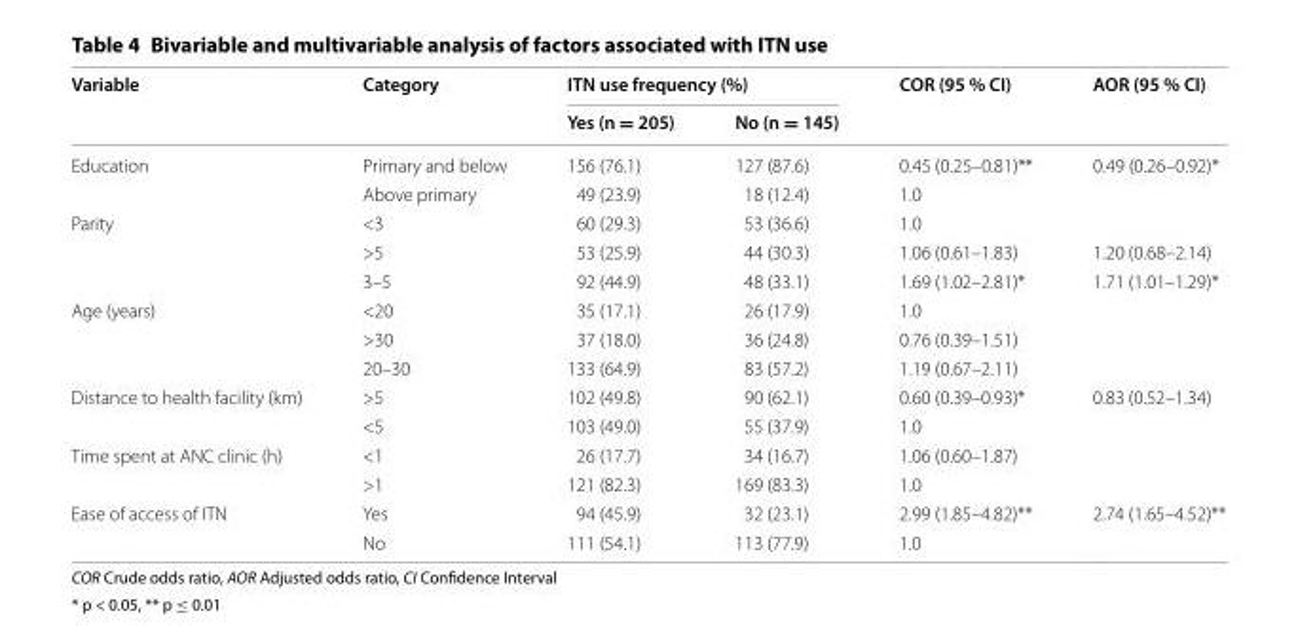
<table><thead><tr><td rowspan="2">Variable</td><td rowspan="2">Category</td><td colspan="2">ITN use frequency (%)</td><td rowspan="2">COR (95 % CI)</td><td rowspan="2">AOR (95 % CI)</td></tr><tr><td>Yes (n = 205)</td><td>No (n = 145)</td></tr></thead><tbody><tr><td rowspan="2">Education</td><td>Primary and below</td><td>156 (76.1)</td><td>127 (87.6)</td><td>0.45 (0.25–0.81)**</td><td>0.49 (0.26–0.92)*</td></tr><tr><td>Above primary</td><td>49 (23.9)</td><td>18 (12.4)</td><td>1.0</td><td></td></tr><tr><td rowspan="3">Parity</td><td>&lt;3</td><td>60 (29.3)</td><td>53 (36.6)</td><td>1.0</td><td></td></tr><tr><td>&gt;5</td><td>53 (25.9)</td><td>44 (30.3)</td><td>1.06 (0.61–1.83)</td><td>1.20 (0.68–2.14)</td></tr><tr><td>3–5</td><td>92 (44.9)</td><td>48 (33.1)</td><td>1.69 (1.02–2.81)*</td><td>1.71 (1.01–1.29)*</td></tr><tr><td rowspan="3">Age (years)</td><td>&lt;20</td><td>35 (17.1)</td><td>26 (17.9)</td><td>1.0</td><td></td></tr><tr><td>&gt;30</td><td>37 (18.0)</td><td>36 (24.8)</td><td>0.76 (0.39–1.51)</td><td></td></tr><tr><td>20–30</td><td>133 (64.9)</td><td>83 (57.2)</td><td>1.19 (0.67–2.11)</td><td></td></tr><tr><td rowspan="2">Distance to health facility (km)</td><td>&gt;5</td><td>102 (49.8)</td><td>90 (62.1)</td><td>0.60 (0.39–0.93)*</td><td>0.83 (0.52–1.34)</td></tr><tr><td>&lt;5</td><td>103 (49.0)</td><td>55 (37.9)</td><td>1.0</td><td></td></tr><tr><td rowspan="2">Time spent at ANC clinic (h)</td><td>&lt;1</td><td>26 (17.7)</td><td>34 (16.7)</td><td>1.06 (0.60–1.87)</td><td></td></tr><tr><td>&gt;1</td><td>121 (82.3)</td><td>169 (83.3)</td><td>1.0</td><td></td></tr><tr><td rowspan="2">Ease of access of ITN</td><td>Yes</td><td>94 (45.9)</td><td>32 (23.1)</td><td>2.99 (1.85–4.82)**</td><td>2.74 (1.65–4.52)**</td></tr><tr><td>No</td><td>111 (54.1)</td><td>113 (77.9)</td><td>1.0</td><td></td></tr></tbody></table>